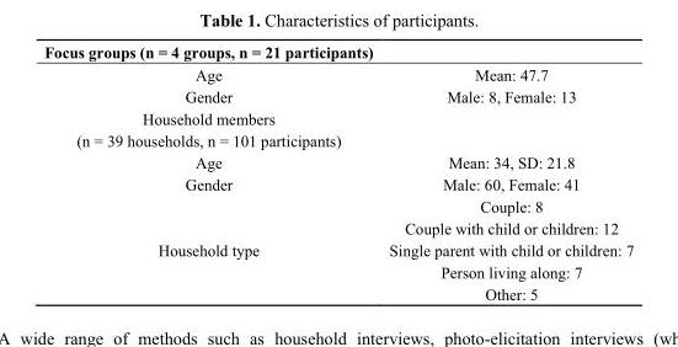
<table><thead><tr><td>Focus groups (n = 4 groups, n = 21 participants)</td><td></td></tr></thead><tbody><tr><td>Age</td><td>Mean: 47.7</td></tr><tr><td>Gender</td><td>Male: 8, Female: 13</td></tr><tr><td colspan="2">Household members (n = 39 households, n = 101 participants)</td></tr><tr><td>Age</td><td>Mean: 34, SD: 21.8</td></tr><tr><td>Gender</td><td>Male: 60, Female: 41</td></tr><tr><td>Household type</td><td>Couple: 8 Couple with child or children: 12 Single parent with child or children: 7 Person living along: 7 Other: 5</td></tr></tbody></table>